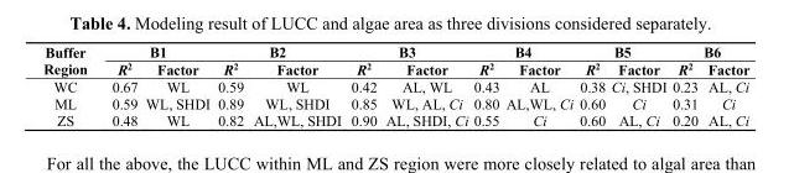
<table><thead><tr><td rowspan="2">Buffer Region</td><td colspan="2">B1</td><td colspan="2">B2</td><td colspan="2">B3</td><td colspan="2">B4</td><td colspan="2">B5</td><td colspan="2">B6</td></tr><tr><td>R<sup>2</sup></td><td>Factor</td><td>R<sup>2</sup></td><td>Factor</td><td>R<sup>2</sup></td><td>Factor</td><td>R<sup>2</sup></td><td>Factor</td><td>R<sup>2</sup></td><td>Factor</td><td>R<sup>2</sup></td><td>Factor</td></tr></thead><tbody><tr><td>WC</td><td>0.67</td><td>WL</td><td>0.59</td><td>WL</td><td>0.42</td><td>AL, WL</td><td>0.43</td><td>AL</td><td>0.38</td><td>Ci, SHDI</td><td>0.23</td><td>AL, Ci</td></tr><tr><td>ML</td><td>0.59</td><td>WL, SHDI</td><td>0.89</td><td>WL, SHDI</td><td>0.85</td><td>WL, AL, Ci</td><td>0.80</td><td>AL,WL, Ci</td><td>0.60</td><td>Ci</td><td>0.31</td><td>Ci</td></tr><tr><td>ZS</td><td>0.48</td><td>WL</td><td>0.82</td><td>AL,WL, SHDI</td><td>0.90</td><td>AL, SHDI, Ci</td><td>0.55</td><td>Ci</td><td>0.60</td><td>AL, Ci</td><td>0.20</td><td>AL, Ci</td></tr></tbody></table>